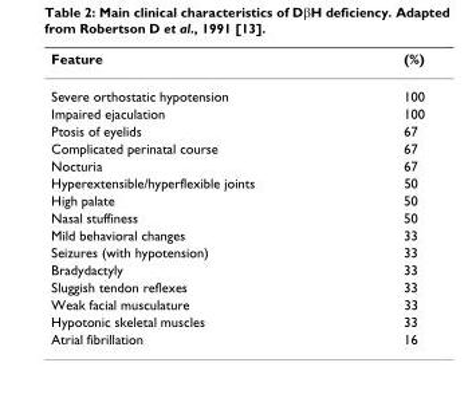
<table><thead><tr><td>Feature</td><td>(%)</td></tr></thead><tbody><tr><td>Severe orthostatic hypotension</td><td>100</td></tr><tr><td>Impaired ejaculation</td><td>100</td></tr><tr><td>Ptosis of eyelids</td><td>67</td></tr><tr><td>Complicated perinatal course</td><td>67</td></tr><tr><td>Nocturia</td><td>67</td></tr><tr><td>Hyperextensible/hyperflexible joints</td><td>50</td></tr><tr><td>High palate</td><td>50</td></tr><tr><td>Nasal stuffiness</td><td>50</td></tr><tr><td>Mild behavioral changes</td><td>33</td></tr><tr><td>Seizures (with hypotension)</td><td>33</td></tr><tr><td>Bradydactyly</td><td>33</td></tr><tr><td>Sluggish tendon reflexes</td><td>33</td></tr><tr><td>Weak facial musculature</td><td>33</td></tr><tr><td>Hypotonic skeletal muscles</td><td>33</td></tr><tr><td>Atrial fibrillation</td><td>16</td></tr></tbody></table>